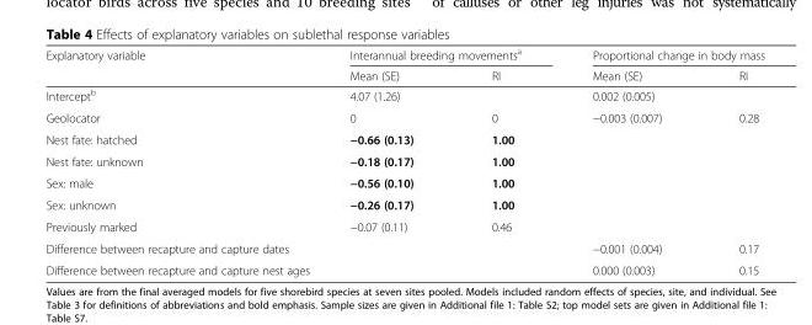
<table><thead><tr><td rowspan="2">Explanatory variable</td><td colspan="2">Interannual breeding movements<sup>a</sup></td><td colspan="2">Proportional change in body mass</td></tr><tr><td>Mean (SE)</td><td>RI</td><td>Mean (SE)</td><td>RI</td></tr></thead><tbody><tr><td>Intercept<sup>b</sup></td><td>4.07 (1.26)</td><td></td><td>0.002 (0.005)</td><td></td></tr><tr><td>Geolocator</td><td>0</td><td>0</td><td>−0.003 (0.007)</td><td>0.28</td></tr><tr><td>Nest fate: hatched</td><td>−0.66 (0.13)</td><td>1.00</td><td></td><td></td></tr><tr><td>Nest fate: unknown</td><td>−0.18 (0.17)</td><td>1.00</td><td></td><td></td></tr><tr><td>Sex: male</td><td>−0.56 (0.10)</td><td>1.00</td><td></td><td></td></tr><tr><td>Sex: unknown</td><td>−0.26 (0.17)</td><td>1.00</td><td></td><td></td></tr><tr><td>Previously marked</td><td>−0.07 (0.11)</td><td>0.46</td><td></td><td></td></tr><tr><td>Difference between recapture and capture dates</td><td></td><td></td><td>−0.001 (0.004)</td><td>0.17</td></tr><tr><td>Difference between recapture and capture nest ages</td><td></td><td></td><td>0.000 (0.003)</td><td>0.15</td></tr></tbody></table>